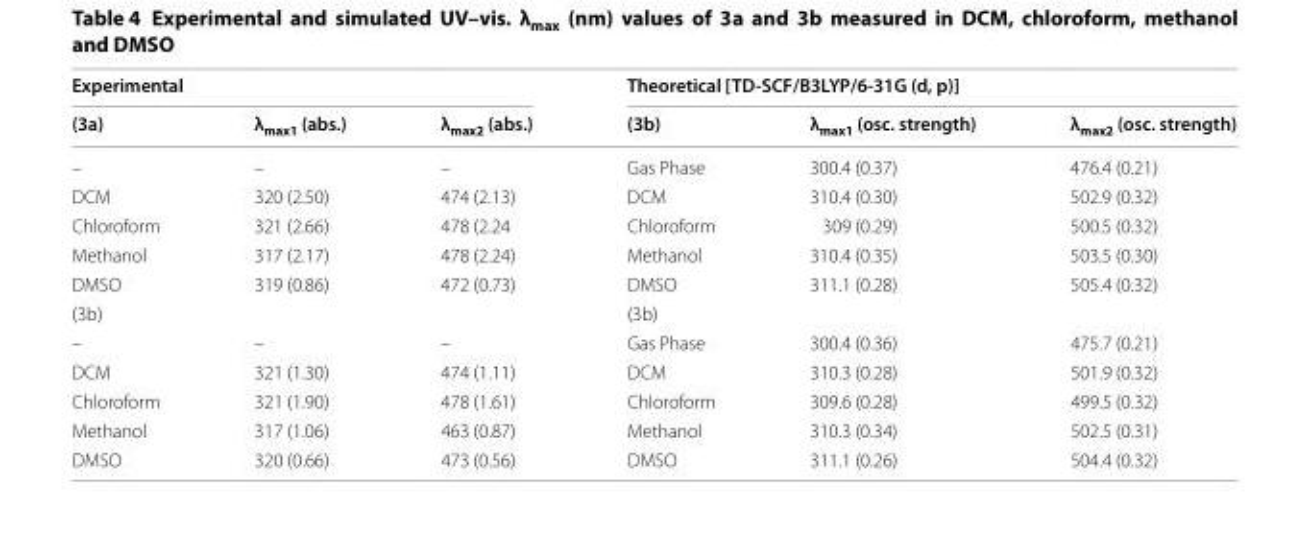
<table><thead><tr><td colspan="3">Experimental</td><td colspan="3">Theoretical [TD‑SCF/B3LYP/6‑31G (d, p)]</td></tr><tr><td>(3a)</td><td>λ<sub>max1</sub> (abs.)</td><td>λ<sub>max2</sub> (abs.)</td><td>(3b)</td><td>λ<sub>max1</sub> (osc. strength)</td><td>λ<sub>max2</sub> (osc. strength)</td></tr></thead><tbody><tr><td>–</td><td>–</td><td>–</td><td>Gas Phase</td><td>300.4 (0.37)</td><td>476.4 (0.21)</td></tr><tr><td>DCM</td><td>320 (2.50)</td><td>474 (2.13)</td><td>DCM</td><td>310.4 (0.30)</td><td>502.9 (0.32)</td></tr><tr><td>Chloroform</td><td>321 (2.66)</td><td>478 (2.24</td><td>Chloroform</td><td>309 (0.29)</td><td>500.5 (0.32)</td></tr><tr><td>Methanol</td><td>317 (2.17)</td><td>478 (2.24)</td><td>Methanol</td><td>310.4 (0.35)</td><td>503.5 (0.30)</td></tr><tr><td>DMSO</td><td>319 (0.86)</td><td>472 (0.73)</td><td>DMSO</td><td>311.1 (0.28)</td><td>505.4 (0.32)</td></tr><tr><td colspan="3">(3b)</td><td colspan="3">(3b)</td></tr><tr><td>–</td><td>–</td><td>–</td><td>Gas Phase</td><td>300.4 (0.36)</td><td>475.7 (0.21)</td></tr><tr><td>DCM</td><td>321 (1.30)</td><td>474 (1.11)</td><td>DCM</td><td>310.3 (0.28)</td><td>501.9 (0.32)</td></tr><tr><td>Chloroform</td><td>321 (1.90)</td><td>478 (1.61)</td><td>Chloroform</td><td>309.6 (0.28)</td><td>499.5 (0.32)</td></tr><tr><td>Methanol</td><td>317 (1.06)</td><td>463 (0.87)</td><td>Methanol</td><td>310.3 (0.34)</td><td>502.5 (0.31)</td></tr><tr><td>DMSO</td><td>320 (0.66)</td><td>473 (0.56)</td><td>DMSO</td><td>311.1 (0.26)</td><td>504.4 (0.32)</td></tr></tbody></table>